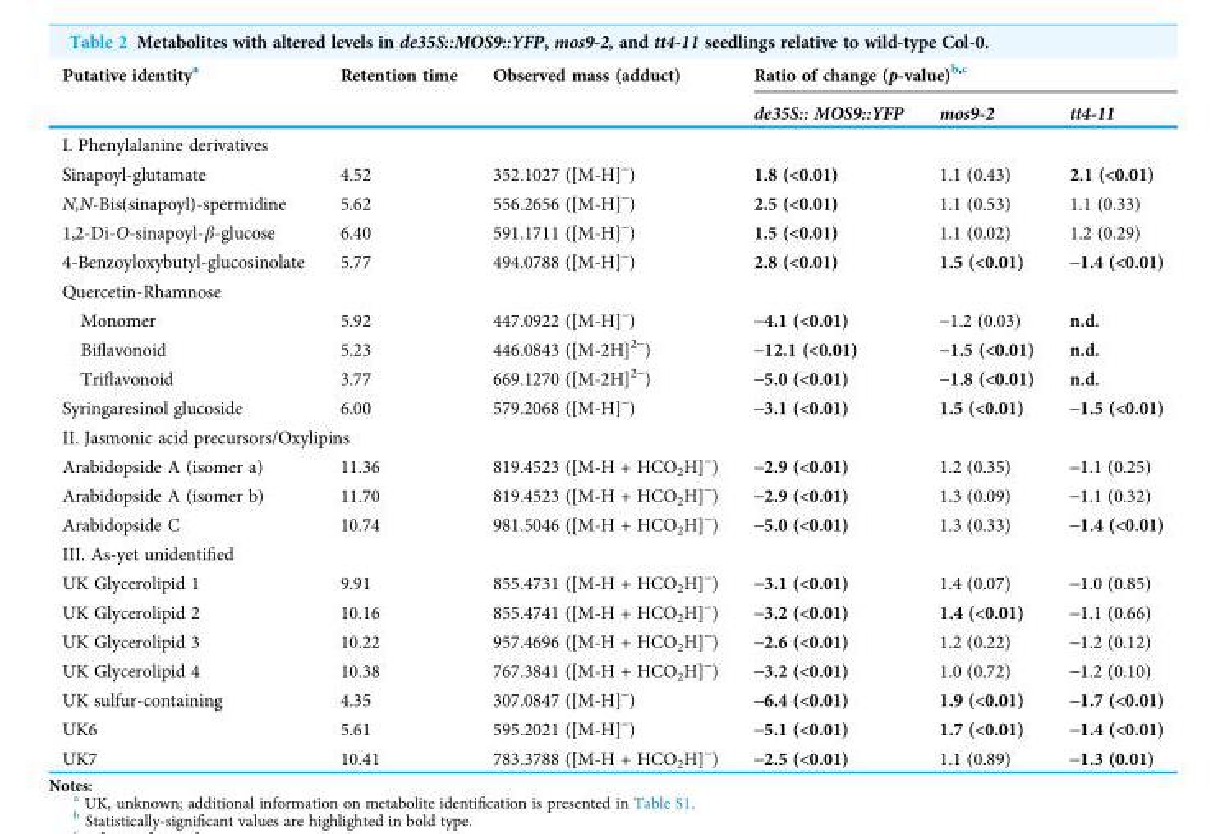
<table><thead><tr><td rowspan="2">Putative identity<sup>a</sup></td><td rowspan="2">Retention time</td><td rowspan="2">Observed mass (adduct)</td><td colspan="3">Ratio of change (p-value)<sup>b,c</sup></td></tr><tr><td>de35S:: MOS9::YFP</td><td>mos9-2</td><td>tt4-11</td></tr></thead><tbody><tr><td colspan="6">I. Phenylalanine derivatives</td></tr><tr><td>Sinapoyl-glutamate</td><td>4.52</td><td>352.1027 ([M-H]<sup>-</sup>)</td><td>1.8 (&lt;0.01)</td><td>1.1 (0.43)</td><td>2.1 (&lt;0.01)</td></tr><tr><td>N,N-Bis(sinapoyl)-spermidine</td><td>5.62</td><td>556.2656 ([M-H]<sup>-</sup>)</td><td>2.5 (&lt;0.01)</td><td>1.1 (0.53)</td><td>1.1 (0.33)</td></tr><tr><td>1,2-Di-O-sinapoyl-β-glucose</td><td>6.40</td><td>591.1711 ([M-H]<sup>-</sup>)</td><td>1.5 (&lt;0.01)</td><td>1.1 (0.02)</td><td>1.2 (0.29)</td></tr><tr><td>4-Benzoyloxybutyl-glucosinolate</td><td>5.77</td><td>494.0788 ([M-H]<sup>-</sup>)</td><td>2.8 (&lt;0.01)</td><td>1.5 (&lt;0.01)</td><td>-1.4 (&lt;0.01)</td></tr><tr><td colspan="6">Quercetin-Rhamnose</td></tr><tr><td>Monomer</td><td>5.92</td><td>447.0922 ([M-H]<sup>-</sup>)</td><td>-4.1 (&lt;0.01)</td><td>-1.2 (0.03)</td><td>n.d.</td></tr><tr><td>Biflavonoid</td><td>5.23</td><td>446.0843 ([M-2H]<sup>2-</sup>)</td><td>-12.1 (&lt;0.01)</td><td>-1.5 (&lt;0.01)</td><td>n.d.</td></tr><tr><td>Triflavonoid</td><td>3.77</td><td>669.1270 ([M-2H]<sup>2-</sup>)</td><td>-5.0 (&lt;0.01)</td><td>-1.8 (&lt;0.01)</td><td>n.d.</td></tr><tr><td>Syringaresinol glucoside</td><td>6.00</td><td>579.2068 ([M-H]<sup>-</sup>)</td><td>-3.1 (&lt;0.01)</td><td>1.5 (&lt;0.01)</td><td>-1.5 (&lt;0.01)</td></tr><tr><td colspan="6">II. Jasmonic acid precursors/Oxylipins</td></tr><tr><td>Arabidopside A (isomer a)</td><td>11.36</td><td>819.4523 ([M-H + HCO<sub>2</sub>H]<sup>-</sup>)</td><td>-2.9 (&lt;0.01)</td><td>1.2 (0.35)</td><td>-1.1 (0.25)</td></tr><tr><td>Arabidopside A (isomer b)</td><td>11.70</td><td>819.4523 ([M-H + HCO<sub>2</sub>H]<sup>-</sup>)</td><td>-2.9 (&lt;0.01)</td><td>1.3 (0.09)</td><td>-1.1 (0.32)</td></tr><tr><td>Arabidopside C</td><td>10.74</td><td>981.5046 ([M-H + HCO<sub>2</sub>H]<sup>-</sup>)</td><td>-5.0 (&lt;0.01)</td><td>1.3 (0.33)</td><td>-1.4 (&lt;0.01)</td></tr><tr><td colspan="6">III. As-yet unidentified</td></tr><tr><td>UK Glycerolipid 1</td><td>9.91</td><td>855.4731 ([M-H + HCO<sub>2</sub>H]<sup>-</sup>)</td><td>-3.1 (&lt;0.01)</td><td>1.4 (0.07)</td><td>-1.0 (0.85)</td></tr><tr><td>UK Glycerolipid 2</td><td>10.16</td><td>855.4741 ([M-H + HCO<sub>2</sub>H]<sup>-</sup>)</td><td>-3.2 (&lt;0.01)</td><td>1.4 (&lt;0.01)</td><td>-1.1 (0.66)</td></tr><tr><td>UK Glycerolipid 3</td><td>10.22</td><td>957.4696 ([M-H + HCO<sub>2</sub>H]<sup>-</sup>)</td><td>-2.6 (&lt;0.01)</td><td>1.2 (0.22)</td><td>-1.2 (0.12)</td></tr><tr><td>UK Glycerolipid 4</td><td>10.38</td><td>767.3841 ([M-H + HCO<sub>2</sub>H]<sup>-</sup>)</td><td>-3.2 (&lt;0.01)</td><td>1.0 (0.72)</td><td>-1.2 (0.10)</td></tr><tr><td>UK sulfur-containing</td><td>4.35</td><td>307.0847 ([M-H]<sup>-</sup>)</td><td>-6.4 (&lt;0.01)</td><td>1.9 (&lt;0.01)</td><td>-1.7 (&lt;0.01)</td></tr><tr><td>UK6</td><td>5.61</td><td>595.2021 ([M-H]<sup>-</sup>)</td><td>-5.1 (&lt;0.01)</td><td>1.7 (&lt;0.01)</td><td>-1.4 (&lt;0.01)</td></tr><tr><td>UK7</td><td>10.41</td><td>783.3788 ([M-H + HCO<sub>2</sub>H]<sup>-</sup>)</td><td>-2.5 (&lt;0.01)</td><td>1.1 (0.89)</td><td>-1.3 (0.01)</td></tr></tbody></table>